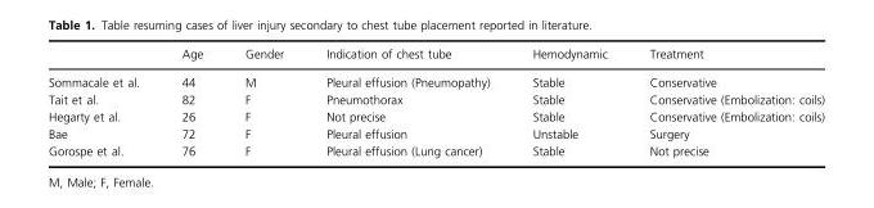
<table><thead><tr><td></td><td>Age</td><td>Gender</td><td>Indication of chest tube</td><td>Hemodynamic</td><td>Treatment</td></tr></thead><tbody><tr><td>Sommacale et al.</td><td>44</td><td>M</td><td>Pleural effusion (Pneumopathy)</td><td>Stable</td><td>Conservative</td></tr><tr><td>Tait et al.</td><td>82</td><td>F</td><td>Pneumothorax</td><td>Stable</td><td>Conservative (Embolization: coils)</td></tr><tr><td>Hegarty et al.</td><td>26</td><td>F</td><td>Not precise</td><td>Stable</td><td>Conservative (Embolization: coils)</td></tr><tr><td>Bae</td><td>72</td><td>F</td><td>Pleural effusion</td><td>Unstable</td><td>Surgery</td></tr><tr><td>Gorospe et al.</td><td>76</td><td>F</td><td>Pleural effusion (Lung cancer)</td><td>Stable</td><td>Not precise</td></tr></tbody></table>